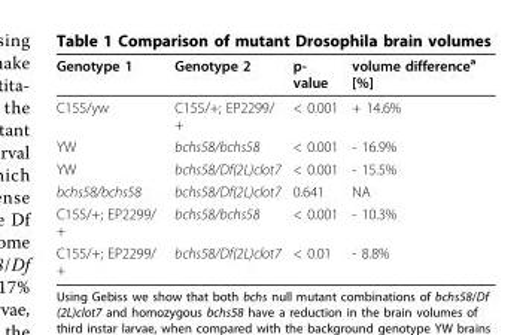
<table><thead><tr><td>Genotype 1</td><td>Genotype 2</td><td>p- value</td><td>volume difference<sup>a</sup> [%]</td></tr></thead><tbody><tr><td>C155/yw</td><td>C155/+; EP2299/ +</td><td>&lt; 0.001</td><td>+ 14.6%</td></tr><tr><td>YW</td><td>bchs58/bchs58</td><td>&lt; 0.001</td><td>- 16.9%</td></tr><tr><td>YW</td><td>bchs58/Df(2L)clot7</td><td>&lt; 0.001</td><td>- 15.5%</td></tr><tr><td>bchs58/bchs58</td><td>bchs58/Df(2L)clot7</td><td>0.641</td><td>NA</td></tr><tr><td>C155/+; EP2299/ +</td><td>bchs58/bchs58</td><td>&lt; 0.001</td><td>- 10.3%</td></tr><tr><td>C155/+; EP2299/ +</td><td>bchs58/Df(2L)clot7</td><td>&lt; 0.01</td><td>- 8.8%</td></tr></tbody></table>